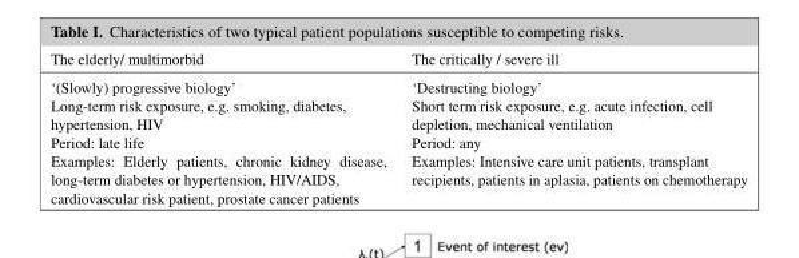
<table><thead><tr><td>The elderly/ multimorbid</td><td>The critically / severe ill</td></tr></thead><tbody><tr><td>‘(Slowly) progressive biology’</td><td>‘Destructing biology’</td></tr><tr><td>Long-term risk exposure, e.g. smoking, diabetes, hypertension, HIV</td><td>Short term risk exposure, e.g. acute infection, cell depletion, mechanical ventilation</td></tr><tr><td>Period: late life</td><td>Period: any</td></tr><tr><td>Examples: Elderly patients, chronic kidney disease, long-term diabetes or hypertension, HIV/AIDS, cardiovascular risk patient, prostate cancer patients</td><td>Examples: Intensive care unit patients, transplant recipients, patients in aplasia, patients on chemotherapy</td></tr></tbody></table>